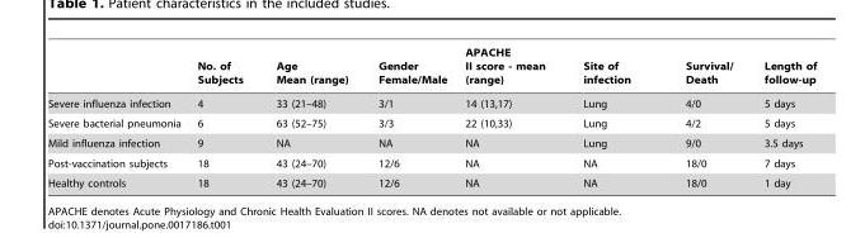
<table><thead><tr><td></td><td>No. of Subjects</td><td>Age Mean (range)</td><td>Gender Female/Male</td><td>APACHE II score - mean (range)</td><td>Site of infection</td><td>Survival/ Death</td><td>Length of follow-up</td></tr></thead><tbody><tr><td>Severe influenza infection</td><td>4</td><td>33 (21–48)</td><td>3/1</td><td>14 (13,17)</td><td>Lung</td><td>4/0</td><td>5 days</td></tr><tr><td>Severe bacterial pneumonia</td><td>6</td><td>63 (52–75)</td><td>3/3</td><td>22 (10,33)</td><td>Lung</td><td>4/2</td><td>5 days</td></tr><tr><td>Mild influenza infection</td><td>9</td><td>NA</td><td>NA</td><td>NA</td><td>Lung</td><td>9/0</td><td>3.5 days</td></tr><tr><td>Post-vaccination subjects</td><td>18</td><td>43 (24–70)</td><td>12/6</td><td>NA</td><td>NA</td><td>18/0</td><td>7 days</td></tr><tr><td>Healthy controls</td><td>18</td><td>43 (24–70)</td><td>12/6</td><td>NA</td><td>NA</td><td>18/0</td><td>1 day</td></tr></tbody></table>